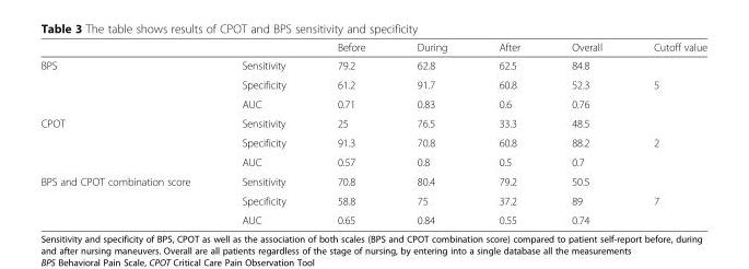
<table><thead><tr><td></td><td></td><td>Before</td><td>During</td><td>After</td><td>Overall</td><td>Cutoff value</td></tr></thead><tbody><tr><td rowspan="3">BPS</td><td>Sensitivity</td><td>79.2</td><td>62.8</td><td>62.5</td><td>84.8</td><td></td></tr><tr><td>Specificity</td><td>61.2</td><td>91.7</td><td>60.8</td><td>52.3</td><td>5</td></tr><tr><td>AUC</td><td>0.71</td><td>0.83</td><td>0.6</td><td>0.76</td><td></td></tr><tr><td rowspan="3">CPOT</td><td>Sensitivity</td><td>25</td><td>76.5</td><td>33.3</td><td>48.5</td><td></td></tr><tr><td>Specificity</td><td>91.3</td><td>70.8</td><td>60.8</td><td>88.2</td><td>2</td></tr><tr><td>AUC</td><td>0.57</td><td>0.8</td><td>0.5</td><td>0.7</td><td></td></tr><tr><td rowspan="3">BPS and CPOT combination score</td><td>Sensitivity</td><td>70.8</td><td>80.4</td><td>79.2</td><td>50.5</td><td></td></tr><tr><td>Specificity</td><td>58.8</td><td>75</td><td>37.2</td><td>89</td><td>7</td></tr><tr><td>AUC</td><td>0.65</td><td>0.84</td><td>0.55</td><td>0.74</td><td></td></tr></tbody></table>